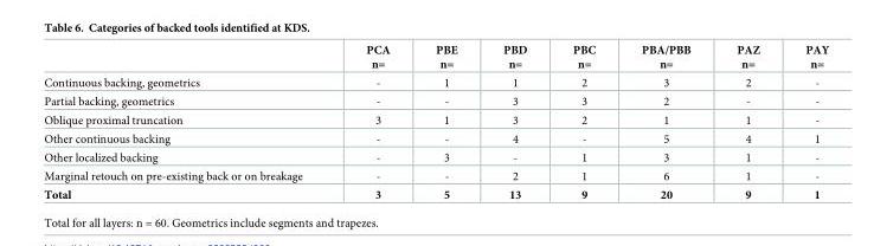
<table><thead><tr><td></td><td>PCA n=</td><td>PBE n=</td><td>PBD n=</td><td>PBC n=</td><td>PBA/PBB n=</td><td>PAZ n=</td><td>PAY n=</td></tr></thead><tbody><tr><td>Continuous backing, geometrics</td><td>-</td><td>1</td><td>1</td><td>2</td><td>3</td><td>2</td><td>-</td></tr><tr><td>Partial backing, geometrics</td><td>-</td><td>-</td><td>3</td><td>3</td><td>2</td><td>-</td><td>-</td></tr><tr><td>Oblique proximal truncation</td><td>3</td><td>1</td><td>3</td><td>2</td><td>1</td><td>1</td><td>-</td></tr><tr><td>Other continuous backing</td><td>-</td><td>-</td><td>4</td><td>-</td><td>5</td><td>4</td><td>1</td></tr><tr><td>Other localized backing</td><td>-</td><td>3</td><td>-</td><td>1</td><td>3</td><td>1</td><td>-</td></tr><tr><td>Marginal retouch on pre-existing back or on breakage</td><td>-</td><td>-</td><td>2</td><td>1</td><td>6</td><td>1</td><td>-</td></tr><tr><td>Total</td><td>3</td><td>5</td><td>13</td><td>9</td><td>20</td><td>9</td><td>1</td></tr></tbody></table>